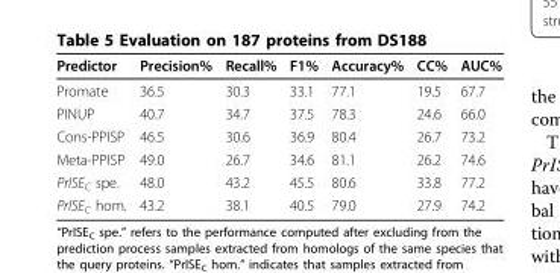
<table><thead><tr><td>Predictor</td><td>Precision%</td><td>Recall%</td><td>F1%</td><td>Accuracy%</td><td>CC%</td><td>AUC%</td></tr></thead><tbody><tr><td>Promate</td><td>36.5</td><td>30.3</td><td>33.1</td><td>77.1</td><td>19.5</td><td>67.7</td></tr><tr><td>PINUP</td><td>40.7</td><td>34.7</td><td>37.5</td><td>78.3</td><td>24.6</td><td>66.0</td></tr><tr><td>Cons-PPISP</td><td>46.5</td><td>30.6</td><td>36.9</td><td>80.4</td><td>26.7</td><td>73.2</td></tr><tr><td>Meta-PPISP</td><td>49.0</td><td>26.7</td><td>34.6</td><td>81.1</td><td>26.2</td><td>74.6</td></tr><tr><td>PrISE<sub>C</sub> spe.</td><td>48.0</td><td>43.2</td><td>45.5</td><td>80.6</td><td>33.8</td><td>77.2</td></tr><tr><td>PrISE<sub>C</sub> hom.</td><td>43.2</td><td>38.1</td><td>40.5</td><td>79.0</td><td>27.9</td><td>74.2</td></tr></tbody></table>